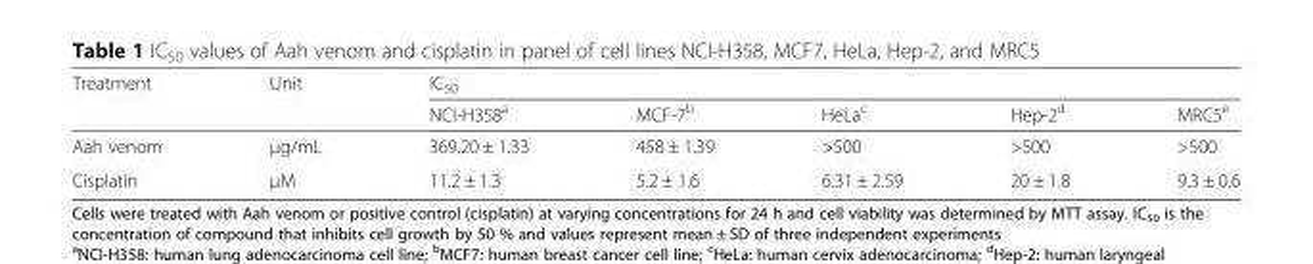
<table><thead><tr><td rowspan="2">Treatment</td><td rowspan="2">Unit</td><td colspan="5">IC<sub>50</sub></td></tr><tr><td>NCI-H358<sup>a</sup></td><td>MCF-7<sup>b</sup></td><td>HeLa<sup>c</sup></td><td>Hep-2<sup>d</sup></td><td>MRC5<sup>e</sup></td></tr></thead><tbody><tr><td>Aah venom</td><td>μg/mL</td><td>369.20 ± 1.33</td><td>458 ± 1.39</td><td>&gt;500</td><td>&gt;500</td><td>&gt;500</td></tr><tr><td>Cisplatin</td><td>μM</td><td>11.2 ± 1.3</td><td>5.2 ± 1.6</td><td>6.31 ± 2.59</td><td>20 ± 1.8</td><td>9.3 ± 0.6</td></tr></tbody></table>